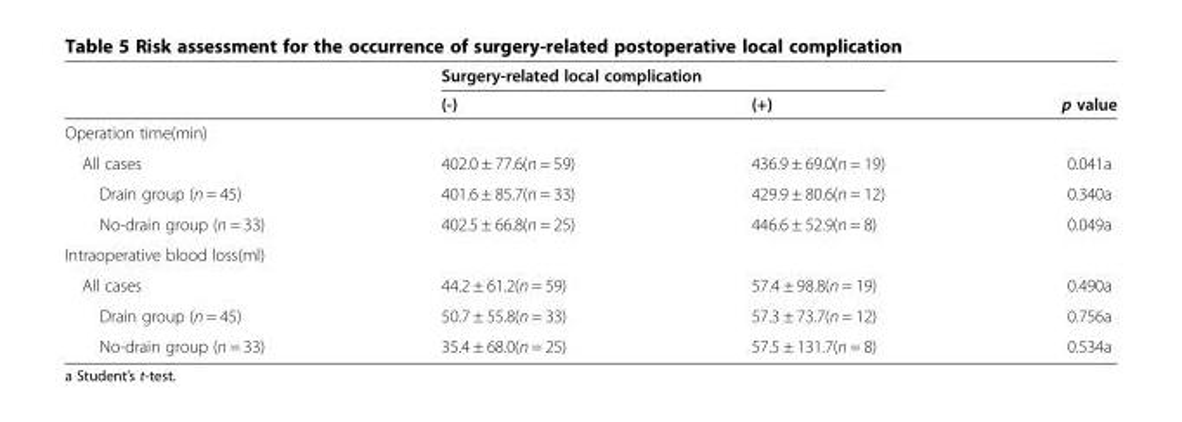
<table><thead><tr><td rowspan="2"></td><td colspan="2">Surgery-related local complication</td><td rowspan="2">p value</td></tr><tr><td>(-)</td><td>(+)</td></tr></thead><tbody><tr><td colspan="4">Operation time(min)</td></tr><tr><td>All cases</td><td>402.0 ± 77.6(n = 59)</td><td>436.9 ± 69.0(n = 19)</td><td>0.041a</td></tr><tr><td>Drain group (n = 45)</td><td>401.6 ± 85.7(n = 33)</td><td>429.9 ± 80.6(n = 12)</td><td>0.340a</td></tr><tr><td>No-drain group (n = 33)</td><td>402.5 ± 66.8(n = 25)</td><td>446.6 ± 52.9(n = 8)</td><td>0.049a</td></tr><tr><td colspan="4">Intraoperative blood loss(ml)</td></tr><tr><td>All cases</td><td>44.2 ± 61.2(n = 59)</td><td>57.4 ± 98.8(n = 19)</td><td>0.490a</td></tr><tr><td>Drain group (n = 45)</td><td>50.7 ± 55.8(n = 33)</td><td>57.3 ± 73.7(n = 12)</td><td>0.756a</td></tr><tr><td>No-drain group (n = 33)</td><td>35.4 ± 68.0(n = 25)</td><td>57.5 ± 131.7(n = 8)</td><td>0.534a</td></tr></tbody></table>